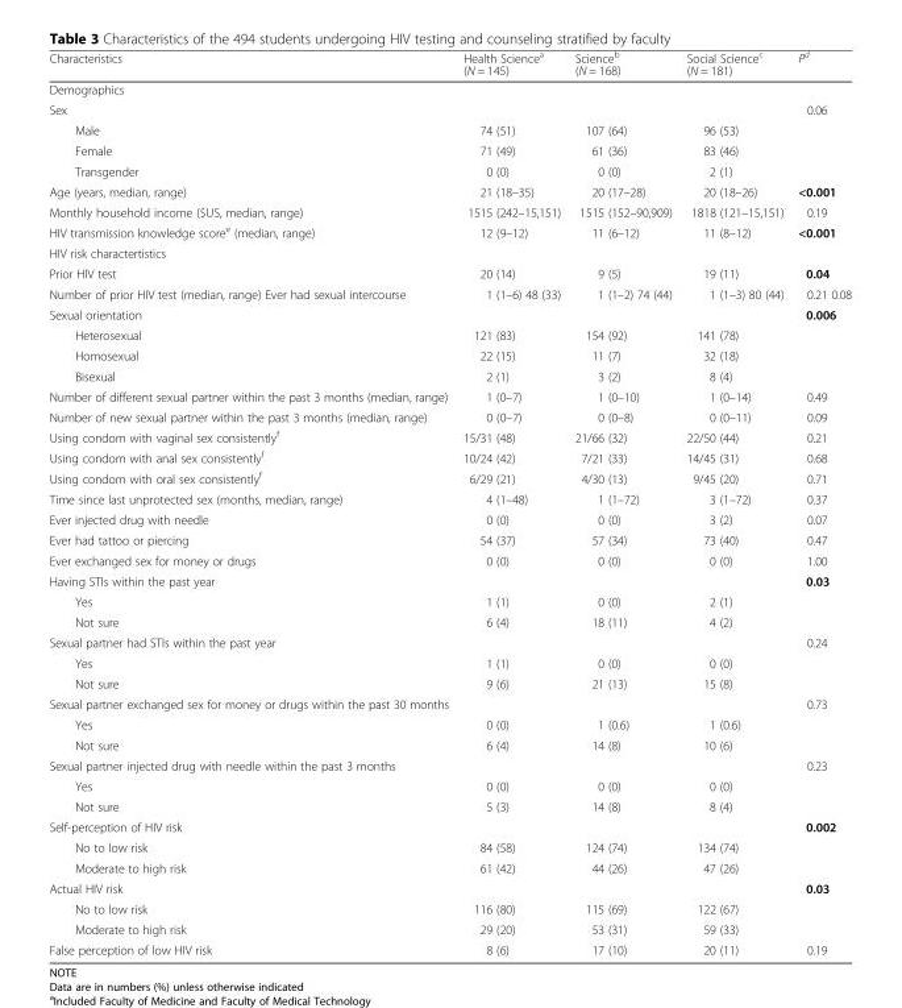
<table><thead><tr><td>Characteristics</td><td>Health Science<sup>a</sup> (N = 145)</td><td>Science<sup>b</sup> (N = 168)</td><td>Social Science<sup>c</sup> (N = 181)</td><td>P<sup>d</sup></td></tr></thead><tbody><tr><td colspan="5">Demographics</td></tr><tr><td>Sex</td><td></td><td></td><td></td><td>0.06</td></tr><tr><td>Male</td><td>74 (51)</td><td>107 (64)</td><td>96 (53)</td><td></td></tr><tr><td>Female</td><td>71 (49)</td><td>61 (36)</td><td>83 (46)</td><td></td></tr><tr><td>Transgender</td><td>0 (0)</td><td>0 (0)</td><td>2 (1)</td><td></td></tr><tr><td>Age (years, median, range)</td><td>21 (18–35)</td><td>20 (17–28)</td><td>20 (18–26)</td><td>&lt;0.001</td></tr><tr><td>Monthly household income ($US, median, range)</td><td>1515 (242–15,151)</td><td>1515 (152–90,909)</td><td>1818 (121–15,151)</td><td>0.19</td></tr><tr><td>HIV transmission knowledge score<sup>e</sup> (median, range)</td><td>12 (9–12)</td><td>11 (6–12)</td><td>11 (8–12)</td><td>&lt;0.001</td></tr><tr><td colspan="5">HIV risk charactertistics</td></tr><tr><td>Prior HIV test</td><td>20 (14)</td><td>9 (5)</td><td>19 (11)</td><td>0.04</td></tr><tr><td>Number of prior HIV test (median, range) Ever had sexual intercourse</td><td>1 (1–6) 48 (33)</td><td>1 (1–2) 74 (44)</td><td>1 (1–3) 80 (44)</td><td>0.21 0.08</td></tr><tr><td>Sexual orientation</td><td></td><td></td><td></td><td>0.006</td></tr><tr><td>Heterosexual</td><td>121 (83)</td><td>154 (92)</td><td>141 (78)</td><td></td></tr><tr><td>Homosexual</td><td>22 (15)</td><td>11 (7)</td><td>32 (18)</td><td></td></tr><tr><td>Bisexual</td><td>2 (1)</td><td>3 (2)</td><td>8 (4)</td><td></td></tr><tr><td>Number of different sexual partner within the past 3 months (median, range)</td><td>1 (0–7)</td><td>1 (0–10)</td><td>1 (0–14)</td><td>0.49</td></tr><tr><td>Number of new sexual partner within the past 3 months (median, range)</td><td>0 (0–7)</td><td>0 (0–8)</td><td>0 (0–11)</td><td>0.09</td></tr><tr><td>Using condom with vaginal sex consistently<sup>f</sup></td><td>15/31 (48)</td><td>21/66 (32)</td><td>22/50 (44)</td><td>0.21</td></tr><tr><td>Using condom with anal sex consistently<sup>f</sup></td><td>10/24 (42)</td><td>7/21 (33)</td><td>14/45 (31)</td><td>0.68</td></tr><tr><td>Using condom with oral sex consistently<sup>f</sup></td><td>6/29 (21)</td><td>4/30 (13)</td><td>9/45 (20)</td><td>0.71</td></tr><tr><td>Time since last unprotected sex (months, median, range)</td><td>4 (1–48)</td><td>1 (1–72)</td><td>3 (1–72)</td><td>0.37</td></tr><tr><td>Ever injected drug with needle</td><td>0 (0)</td><td>0 (0)</td><td>3 (2)</td><td>0.07</td></tr><tr><td>Ever had tattoo or piercing</td><td>54 (37)</td><td>57 (34)</td><td>73 (40)</td><td>0.47</td></tr><tr><td>Ever exchanged sex for money or drugs</td><td>0 (0)</td><td>0 (0)</td><td>0 (0)</td><td>1.00</td></tr><tr><td>Having STIs within the past year</td><td></td><td></td><td></td><td>0.03</td></tr><tr><td>Yes</td><td>1 (1)</td><td>0 (0)</td><td>2 (1)</td><td></td></tr><tr><td>Not sure</td><td>6 (4)</td><td>18 (11)</td><td>4 (2)</td><td></td></tr><tr><td>Sexual partner had STIs within the past year</td><td></td><td></td><td></td><td>0.24</td></tr><tr><td>Yes</td><td>1 (1)</td><td>0 (0)</td><td>0 (0)</td><td></td></tr><tr><td>Not sure</td><td>9 (6)</td><td>21 (13)</td><td>15 (8)</td><td></td></tr><tr><td>Sexual partner exchanged sex for money or drugs within the past 30 months</td><td></td><td></td><td></td><td>0.73</td></tr><tr><td>Yes</td><td>0 (0)</td><td>1 (0.6)</td><td>1 (0.6)</td><td></td></tr><tr><td>Not sure</td><td>6 (4)</td><td>14 (8)</td><td>10 (6)</td><td></td></tr><tr><td>Sexual partner injected drug with needle within the past 3 months</td><td></td><td></td><td></td><td>0.23</td></tr><tr><td>Yes</td><td>0 (0)</td><td>0 (0)</td><td>0 (0)</td><td></td></tr><tr><td>Not sure</td><td>5 (3)</td><td>14 (8)</td><td>8 (4)</td><td></td></tr><tr><td>Self-perception of HIV risk</td><td></td><td></td><td></td><td>0.002</td></tr><tr><td>No to low risk</td><td>84 (58)</td><td>124 (74)</td><td>134 (74)</td><td></td></tr><tr><td>Moderate to high risk</td><td>61 (42)</td><td>44 (26)</td><td>47 (26)</td><td></td></tr><tr><td>Actual HIV risk</td><td></td><td></td><td></td><td>0.03</td></tr><tr><td>No to low risk</td><td>116 (80)</td><td>115 (69)</td><td>122 (67)</td><td></td></tr><tr><td>Moderate to high risk</td><td>29 (20)</td><td>53 (31)</td><td>59 (33)</td><td></td></tr><tr><td>False perception of low HIV risk</td><td>8 (6)</td><td>17 (10)</td><td>20 (11)</td><td>0.19</td></tr></tbody></table>